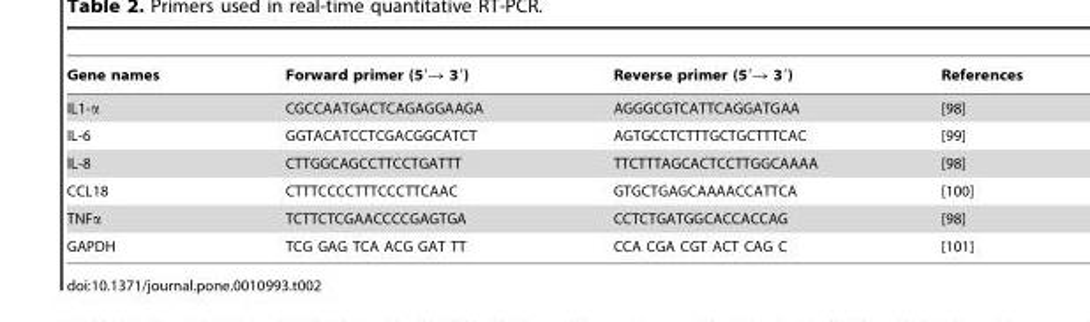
<table><thead><tr><td>Gene names</td><td>Forward primer (5′→ 3′)</td><td>Reverse primer (5′→ 3′)</td><td>References</td></tr></thead><tbody><tr><td>IL1-α</td><td>CGCCAATGACTCAGAGGAAGA</td><td>AGGGCGTCATTCAGGATGAA</td><td>[98]</td></tr><tr><td>IL-6</td><td>GGTACATCCTCGACGGCATCT</td><td>AGTGCCTCTTTGCTGCTTTCAC</td><td>[99]</td></tr><tr><td>IL-8</td><td>CTTGGCAGCCTTCCTGATTT</td><td>TTCTTTAGCACTCCTTGGCAAAA</td><td>[98]</td></tr><tr><td>CCL18</td><td>CTTTCCCCTTTCCCTTCAAC</td><td>GTGCTGAGCAAAACCATTCA</td><td>[100]</td></tr><tr><td>TNFα</td><td>TCTTCTCGAACCCCGAGTGA</td><td>CCTCTGATGGCACCACCAG</td><td>[98]</td></tr><tr><td>GAPDH</td><td>TCG GAG TCA ACG GAT TT</td><td>CCA CGA CGT ACT CAG C</td><td>[101]</td></tr></tbody></table>